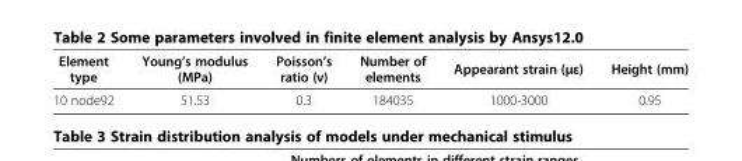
<table><thead><tr><td>Element type</td><td>Young’s modulus (MPa)</td><td>Poisson’s ratio (ν)</td><td>Number of elements</td><td>Appearant strain (με)</td><td>Height (mm)</td></tr></thead><tbody><tr><td>10 node92</td><td>51.53</td><td>0.3</td><td>184035</td><td>1000-3000</td><td>0.95</td></tr></tbody></table>